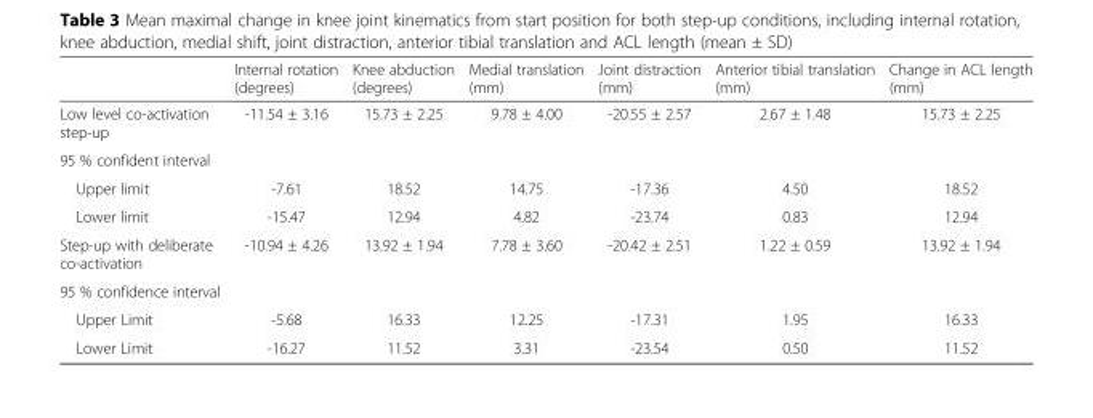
<table><thead><tr><td></td><td>Internal rotation (degrees)</td><td>Knee abduction (degrees)</td><td>Medial translation (mm)</td><td>Joint distraction (mm)</td><td>Anterior tibial translation (mm)</td><td>Change in ACL length (mm)</td></tr></thead><tbody><tr><td>Low level co-activation step-up</td><td>-11.54 ± 3.16</td><td>15.73 ± 2.25</td><td>9.78 ± 4.00</td><td>-20.55 ± 2.57</td><td>2.67 ± 1.48</td><td>15.73 ± 2.25</td></tr><tr><td colspan="7">95 % confident interval</td></tr><tr><td>Upper limit</td><td>-7.61</td><td>18.52</td><td>14.75</td><td>-17.36</td><td>4.50</td><td>18.52</td></tr><tr><td>Lower limit</td><td>-15.47</td><td>12.94</td><td>4.82</td><td>-23.74</td><td>0.83</td><td>12.94</td></tr><tr><td>Step-up with deliberate co-activation</td><td>-10.94 ± 4.26</td><td>13.92 ± 1.94</td><td>7.78 ± 3.60</td><td>-20.42 ± 2.51</td><td>1.22 ± 0.59</td><td>13.92 ± 1.94</td></tr><tr><td colspan="7">95 % confidence interval</td></tr><tr><td>Upper Limit</td><td>-5.68</td><td>16.33</td><td>12.25</td><td>-17.31</td><td>1.95</td><td>16.33</td></tr><tr><td>Lower Limit</td><td>-16.27</td><td>11.52</td><td>3.31</td><td>-23.54</td><td>0.50</td><td>11.52</td></tr></tbody></table>